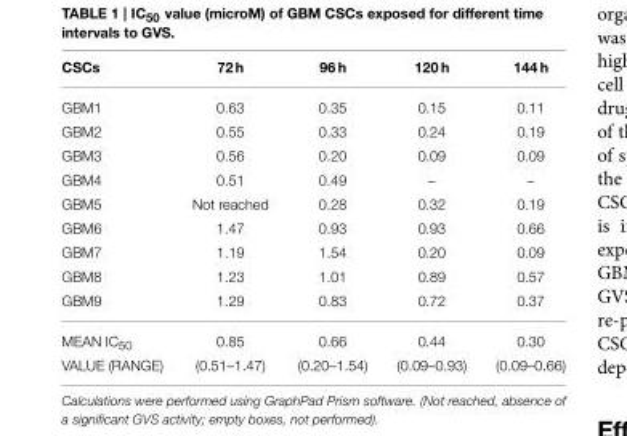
<table><thead><tr><td>CSCs</td><td>72 h</td><td>96 h</td><td>120 h</td><td>144 h</td></tr></thead><tbody><tr><td>GBM1</td><td>0.63</td><td>0.35</td><td>0.15</td><td>0.11</td></tr><tr><td>GBM2</td><td>0.55</td><td>0.33</td><td>0.24</td><td>0.19</td></tr><tr><td>GBM3</td><td>0.56</td><td>0.20</td><td>0.09</td><td>0.09</td></tr><tr><td>GBM4</td><td>0.51</td><td>0.49</td><td>–</td><td>–</td></tr><tr><td>GBM5</td><td>Not reached</td><td>0.28</td><td>0.32</td><td>0.19</td></tr><tr><td>GBM6</td><td>1.47</td><td>0.93</td><td>0.93</td><td>0.66</td></tr><tr><td>GBM7</td><td>1.19</td><td>1.54</td><td>0.20</td><td>0.09</td></tr><tr><td>GBM8</td><td>1.23</td><td>1.01</td><td>0.89</td><td>0.57</td></tr><tr><td>GBM9</td><td>1.29</td><td>0.83</td><td>0.72</td><td>0.37</td></tr><tr><td>MEAN IC<sub>50</sub></td><td>0.85</td><td>0.66</td><td>0.44</td><td>0.30</td></tr><tr><td>VALUE (RANGE)</td><td>(0.51–1.47)</td><td>(0.20–1.54)</td><td>(0.09–0.93)</td><td>(0.09–0.66)</td></tr></tbody></table>